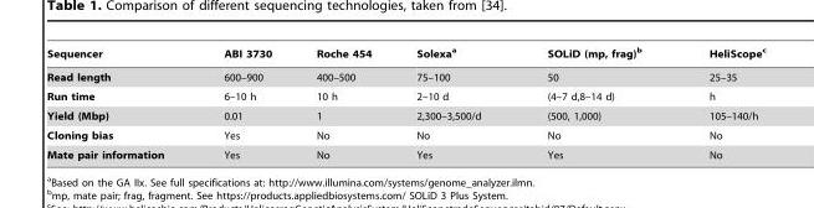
<table><thead><tr><td>Sequencer</td><td>ABI 3730</td><td>Roche 454</td><td>Solexa<sup>a</sup></td><td>SOLiD (mp, frag)<sup>b</sup></td><td>HeliScope<sup>c</sup></td></tr></thead><tbody><tr><td>Read length</td><td>600–900</td><td>400–500</td><td>75–100</td><td>50</td><td>25–35</td></tr><tr><td>Run time</td><td>6–10 h</td><td>10 h</td><td>2–10 d</td><td>(4–7 d,8–14 d)</td><td>h</td></tr><tr><td>Yield (Mbp)</td><td>0.01</td><td>1</td><td>2,300–3,500/d</td><td>(500, 1,000)</td><td>105–140/h</td></tr><tr><td>Cloning bias</td><td>Yes</td><td>No</td><td>No</td><td>No</td><td>No</td></tr><tr><td>Mate pair information</td><td>Yes</td><td>No</td><td>Yes</td><td>Yes</td><td>No</td></tr></tbody></table>